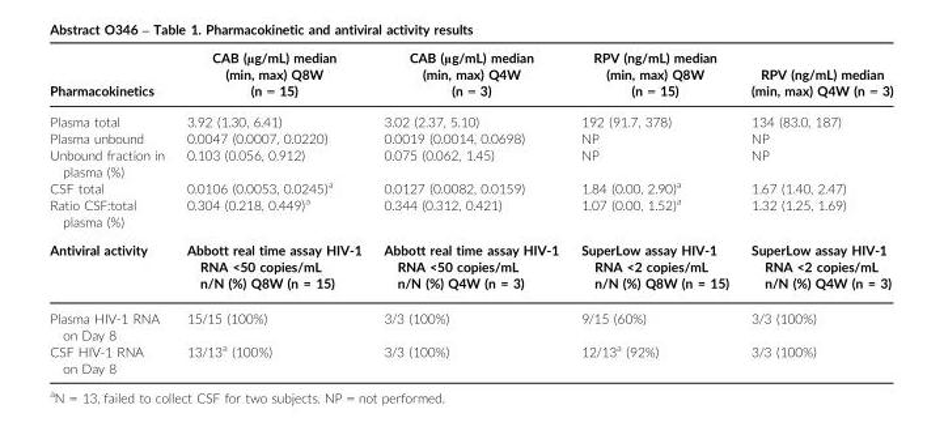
<table><thead><tr><td>Pharmacokinetics</td><td>CAB (µg/mL) median (min, max) Q8W (n = 15)</td><td>CAB (µg/mL) median (min, max) Q4W (n = 3)</td><td>RPV (ng/mL) median (min, max) Q8W (n = 15)</td><td>RPV (ng/mL) median (min, max) Q4W (n = 3)</td></tr></thead><tbody><tr><td>Plasma total</td><td>3.92 (1.30, 6.41)</td><td>3.02 (2.37, 5.10)</td><td>192 (91.7, 378)</td><td>134 (83.0, 187)</td></tr><tr><td>Plasma unbound</td><td>0.0047 (0.0007, 0.0220)</td><td>0.0019 (0.0014, 0.0698)</td><td>NP</td><td>NP</td></tr><tr><td>Unbound fraction in plasma (%)</td><td>0.103 (0.056, 0.912)</td><td>0.075 (0.062, 1.45)</td><td>NP</td><td>NP</td></tr><tr><td>CSF total</td><td>0.0106 (0.0053, 0.0245)<sup>a</sup></td><td>0.0127 (0.0082, 0.0159)</td><td>1.84 (0.00, 2.90)<sup>a</sup></td><td>1.67 (1.40, 2.47)</td></tr><tr><td>Ratio CSF:total plasma (%)</td><td>0.304 (0.218, 0.449)<sup>a</sup></td><td>0.344 (0.312, 0.421)</td><td>1.07 (0.00, 1.52)<sup>a</sup></td><td>1.32 (1.25, 1.69)</td></tr><tr><td>Antiviral activity</td><td>Abbott real time assay HIV-1 RNA &lt;50 copies/mL n/N (%) Q8W (n = 15)</td><td>Abbott real time assay HIV-1 RNA &lt;50 copies/mL n/N (%) Q4W (n = 3)</td><td>SuperLow assay HIV-1 RNA &lt;2 copies/mL n/N (%) Q8W (n = 15)</td><td>SuperLow assay HIV-1 RNA &lt;2 copies/mL n/N (%) Q4W (n = 3)</td></tr><tr><td>Plasma HIV-1 RNA on Day 8</td><td>15/15 (100%)</td><td>3/3 (100%)</td><td>9/15 (60%)</td><td>3/3 (100%)</td></tr><tr><td>CSF HIV-1 RNA on Day 8</td><td>13/13<sup>a</sup> (100%)</td><td>3/3 (100%)</td><td>12/13<sup>a</sup> (92%)</td><td>3/3 (100%)</td></tr></tbody></table>